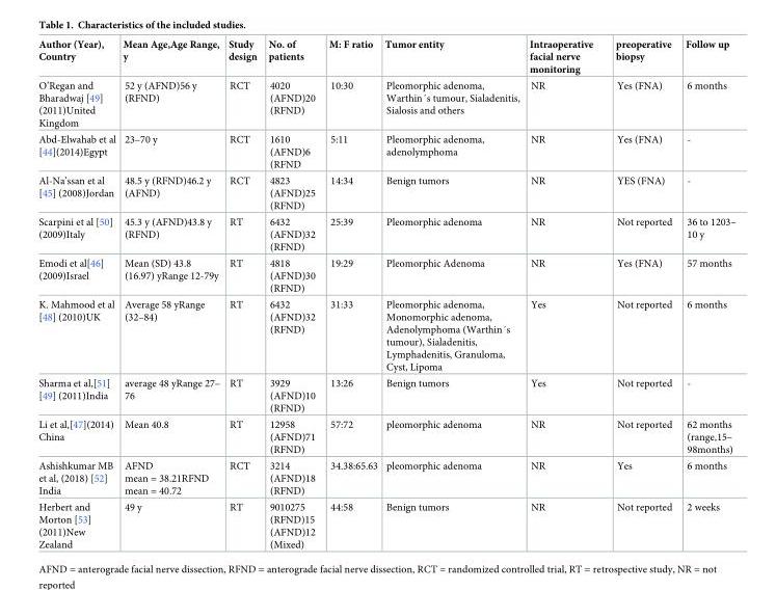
<table><thead><tr><td>Author (Year), Country</td><td>Mean Age,Age Range, y</td><td>Study design</td><td>No. of patients</td><td>M: F ratio</td><td>Tumor entity</td><td>Intraoperative facial nerve monitoring</td><td>preoperative biopsy</td><td>Follow up</td></tr></thead><tbody><tr><td>O’Regan and Bharadwaj [49] (2011)United Kingdom</td><td>52 y (AFND)56 y (RFND)</td><td>RCT</td><td>4020 (AFND)20 (RFND)</td><td>10:30</td><td>Pleomorphic adenoma, Warthin´s tumour, Sialadenitis, Sialosis and others</td><td>NR</td><td>Yes (FNA)</td><td>6 months</td></tr><tr><td>Abd-Elwahab et al [44](2014)Egypt</td><td>23–70 y</td><td>RCT</td><td>1610 (AFND)6 (RFND</td><td>5:11</td><td>Pleomorphic adenoma, adenolymphoma</td><td>NR</td><td>Yes (FNA)</td><td>-</td></tr><tr><td>Al-Na’ssan et al [45] (2008)Jordan</td><td>48.5 y (RFND)46.2 y (AFND)</td><td>RCT</td><td>4823 (AFND)25 (RFND)</td><td>14:34</td><td>Benign tumors</td><td>NR</td><td>YES (FNA)</td><td>-</td></tr><tr><td>Scarpini et al [50] (2009)Italy</td><td>45.3 y (AFND)43.8 y (RFND)</td><td>RT</td><td>6432 (AFND)32 (RFND)</td><td>25:39</td><td>Pleomorphic adenoma</td><td>NR</td><td>Not reported</td><td>36 to 1203– 10 y</td></tr><tr><td>Emodi et al[46] (2009)Israel</td><td>Mean (SD) 43.8 (16.97) yRange 12-79y</td><td>RT</td><td>4818 (AFND)30 (RFND)</td><td>19:29</td><td>Pleomorphic Adenoma</td><td>NR</td><td>Yes (FNA)</td><td>57 months</td></tr><tr><td>K. Mahmood et al [48] (2010)UK</td><td>Average 58 yRange (32–84)</td><td>RT</td><td>6432 (AFND)32 (RFND)</td><td>31:33</td><td>Pleomorphic adenoma, Monomorphic adenoma, Adenolymphoma (Warthin´s tumour), Sialadenitis, Lymphadenitis, Granuloma, Cyst, Lipoma</td><td>Yes</td><td>Not reported</td><td>6 months</td></tr><tr><td>Sharma et al,[51] [49] (2011)India</td><td>average 48 yRange 27– 76</td><td>RT</td><td>3929 (AFND)10 (RFND)</td><td>13:26</td><td>Benign tumors</td><td>Yes</td><td>Not reported</td><td>-</td></tr><tr><td>Li et al,[47](2014) China</td><td>Mean 40.8</td><td>RT</td><td>12958 (AFND)71 (RFND)</td><td>57:72</td><td>pleomorphic adenoma</td><td>NR</td><td>Not reported</td><td>62 months (range,15– 98months)</td></tr><tr><td>Ashishkumar MB et al, (2018) [52] India</td><td>AFND mean = 38.21RFND mean = 40.72</td><td>RCT</td><td>3214 (AFND)18 (RFND)</td><td>34.38:65.63</td><td>pleomorphic adenoma</td><td>NR</td><td>Yes</td><td>6 months</td></tr><tr><td>Herbert and Morton [53] (2011)New Zealand</td><td>49 y</td><td>RT</td><td>9010275 (RFND)15 (AFND)12 (Mixed)</td><td>44:58</td><td>Benign tumors</td><td>NR</td><td>Not reported</td><td>2 weeks</td></tr></tbody></table>